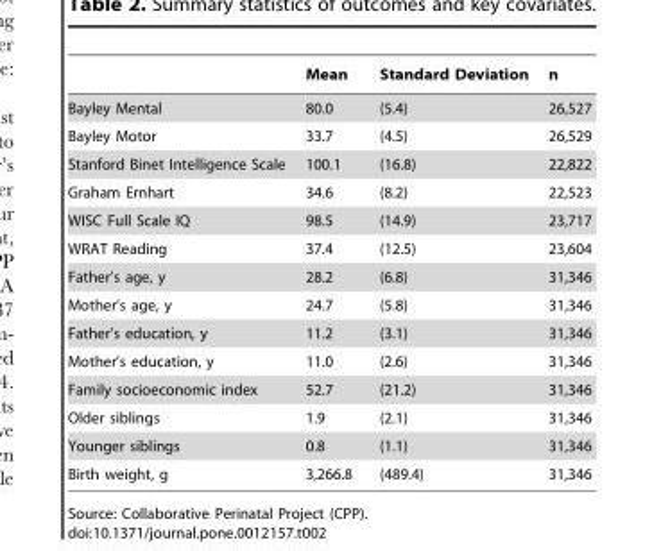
<table><thead><tr><td></td><td>Mean</td><td>Standard Deviation</td><td>n</td></tr></thead><tbody><tr><td>Bayley Mental</td><td>80.0</td><td>(5.4)</td><td>26,527</td></tr><tr><td>Bayley Motor</td><td>33.7</td><td>(4.5)</td><td>26,529</td></tr><tr><td>Stanford Binet Intelligence Scale</td><td>100.1</td><td>(16.8)</td><td>22,822</td></tr><tr><td>Graham Ernhart</td><td>34.6</td><td>(8.2)</td><td>22,523</td></tr><tr><td>WISC Full Scale IQ</td><td>98.5</td><td>(14.9)</td><td>23,717</td></tr><tr><td>WRAT Reading</td><td>37.4</td><td>(12.5)</td><td>23,604</td></tr><tr><td>Father’s age, y</td><td>28.2</td><td>(6.8)</td><td>31,346</td></tr><tr><td>Mother’s age, y</td><td>24.7</td><td>(5.8)</td><td>31,346</td></tr><tr><td>Father’s education, y</td><td>11.2</td><td>(3.1)</td><td>31,346</td></tr><tr><td>Mother’s education, y</td><td>11.0</td><td>(2.6)</td><td>31,346</td></tr><tr><td>Family socioeconomic index</td><td>52.7</td><td>(21.2)</td><td>31,346</td></tr><tr><td>Older siblings</td><td>1.9</td><td>(2.1)</td><td>31,346</td></tr><tr><td>Younger siblings</td><td>0.8</td><td>(1.1)</td><td>31,346</td></tr><tr><td>Birth weight, g</td><td>3,266.8</td><td>(489.4)</td><td>31,346</td></tr></tbody></table>